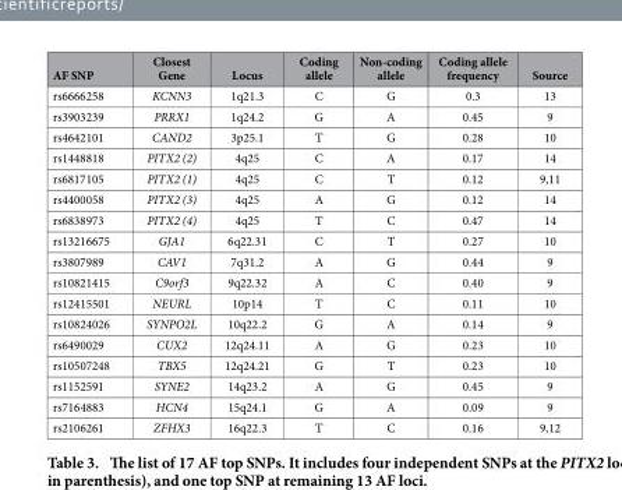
<table><thead><tr><td>AF SNP</td><td>Closest Gene</td><td>Locus</td><td>Coding allele</td><td>Non-coding allele</td><td>Coding allele frequency</td><td>Source</td></tr></thead><tbody><tr><td>rs6666258</td><td>KCNN3</td><td>1q21.3</td><td>C</td><td>G</td><td>0.3</td><td>13</td></tr><tr><td>rs3903239</td><td>PRRX1</td><td>1q24.2</td><td>G</td><td>A</td><td>0.45</td><td>9</td></tr><tr><td>rs4642101</td><td>CAND2</td><td>3p25.1</td><td>T</td><td>G</td><td>0.28</td><td>10</td></tr><tr><td>rs1448818</td><td>PITX2 (2)</td><td>4q25</td><td>C</td><td>A</td><td>0.17</td><td>14</td></tr><tr><td>rs6817105</td><td>PITX2 (1)</td><td>4q25</td><td>C</td><td>T</td><td>0.12</td><td>9,11</td></tr><tr><td>rs4400058</td><td>PITX2 (3)</td><td>4q25</td><td>A</td><td>G</td><td>0.12</td><td>14</td></tr><tr><td>rs6838973</td><td>PITX2 (4)</td><td>4q25</td><td>T</td><td>C</td><td>0.47</td><td>14</td></tr><tr><td>rs13216675</td><td>GJA1</td><td>6q22.31</td><td>C</td><td>T</td><td>0.27</td><td>10</td></tr><tr><td>rs3807989</td><td>CAV1</td><td>7q31.2</td><td>A</td><td>G</td><td>0.44</td><td>9</td></tr><tr><td>rs10821415</td><td>C9orf3</td><td>9q22.32</td><td>A</td><td>C</td><td>0.40</td><td>9</td></tr><tr><td>rs12415501</td><td>NEURL</td><td>10p14</td><td>T</td><td>C</td><td>0.11</td><td>10</td></tr><tr><td>rs10824026</td><td>SYNPO2L</td><td>10q22.2</td><td>G</td><td>A</td><td>0.14</td><td>9</td></tr><tr><td>rs6490029</td><td>CUX2</td><td>12q24.11</td><td>A</td><td>G</td><td>0.23</td><td>10</td></tr><tr><td>rs10507248</td><td>TBX5</td><td>12q24.21</td><td>G</td><td>T</td><td>0.23</td><td>10</td></tr><tr><td>rs1152591</td><td>SYNE2</td><td>14q23.2</td><td>A</td><td>G</td><td>0.45</td><td>9</td></tr><tr><td>rs7164883</td><td>HCN4</td><td>15q24.1</td><td>G</td><td>A</td><td>0.09</td><td>9</td></tr><tr><td>rs2106261</td><td>ZFHX3</td><td>16q22.3</td><td>T</td><td>C</td><td>0.16</td><td>9,12</td></tr></tbody></table>